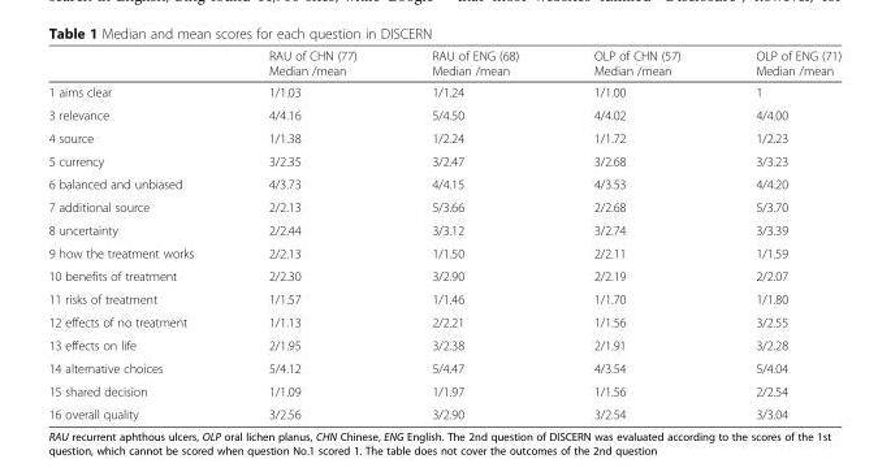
<table><thead><tr><td></td><td>RAU of CHN (77) Median /mean</td><td>RAU of ENG (68) Median /mean</td><td>OLP of CHN (57) Median /mean</td><td>OLP of ENG (71) Median /mean</td></tr></thead><tbody><tr><td>1 aims clear</td><td>1/1.03</td><td>1/1.24</td><td>1/1.00</td><td>1</td></tr><tr><td>3 relevance</td><td>4/4.16</td><td>5/4.50</td><td>4/4.02</td><td>4/4.00</td></tr><tr><td>4 source</td><td>1/1.38</td><td>1/2.24</td><td>1/1.72</td><td>1/2.23</td></tr><tr><td>5 currency</td><td>3/2.35</td><td>3/2.47</td><td>3/2.68</td><td>3/3.23</td></tr><tr><td>6 balanced and unbiased</td><td>4/3.73</td><td>4/4.15</td><td>4/3.53</td><td>4/4.20</td></tr><tr><td>7 additional source</td><td>2/2.13</td><td>5/3.66</td><td>2/2.68</td><td>5/3.70</td></tr><tr><td>8 uncertainty</td><td>2/2.44</td><td>3/3.12</td><td>3/2.74</td><td>3/3.39</td></tr><tr><td>9 how the treatment works</td><td>2/2.13</td><td>1/1.50</td><td>2/2.11</td><td>1/1.59</td></tr><tr><td>10 benefits of treatment</td><td>2/2.30</td><td>3/2.90</td><td>2/2.19</td><td>2/2.07</td></tr><tr><td>11 risks of treatment</td><td>1/1.57</td><td>1/1.46</td><td>1/1.70</td><td>1/1.80</td></tr><tr><td>12 effects of no treatment</td><td>1/1.13</td><td>2/2.21</td><td>1/1.56</td><td>3/2.55</td></tr><tr><td>13 effects on life</td><td>2/1.95</td><td>3/2.38</td><td>2/1.91</td><td>3/2.28</td></tr><tr><td>14 alternative choices</td><td>5/4.12</td><td>5/4.47</td><td>4/3.54</td><td>5/4.04</td></tr><tr><td>15 shared decision</td><td>1/1.09</td><td>1/1.97</td><td>1/1.56</td><td>2/2.54</td></tr><tr><td>16 overall quality</td><td>3/2.56</td><td>3/2.90</td><td>3/2.54</td><td>3/3.04</td></tr></tbody></table>